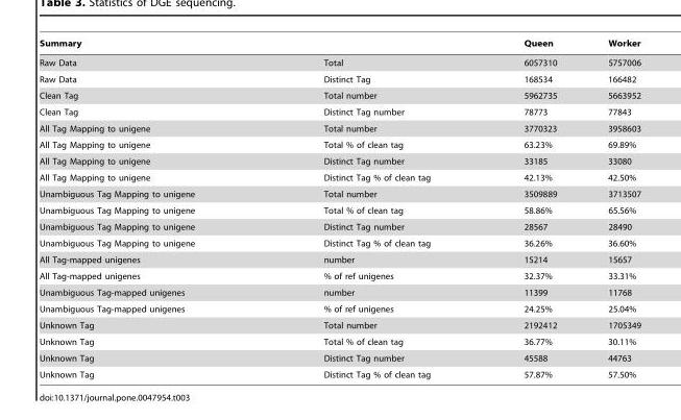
<table><thead><tr><td colspan="2">Summary</td><td rowspan="2">Queen 6057310</td><td rowspan="2">Worker 5757006</td></tr><tr><td>Raw Data</td><td>Total</td></tr></thead><tbody><tr><td>Raw Data</td><td>Distinct Tag</td><td>168534</td><td>166482</td></tr><tr><td>Clean Tag</td><td>Total number</td><td>5962735</td><td>5663952</td></tr><tr><td>Clean Tag</td><td>Distinct Tag number</td><td>78773</td><td>77843</td></tr><tr><td>All Tag Mapping to unigene</td><td>Total number</td><td>3770323</td><td>3958603</td></tr><tr><td>All Tag Mapping to unigene</td><td>Total % of clean tag</td><td>63.23%</td><td>69.89%</td></tr><tr><td>All Tag Mapping to unigene</td><td>Distinct Tag number</td><td>33185</td><td>33080</td></tr><tr><td>All Tag Mapping to unigene</td><td>Distinct Tag % of clean tag</td><td>42.13%</td><td>42.50%</td></tr><tr><td>Unambiguous Tag Mapping to unigene</td><td>Total number</td><td>3509889</td><td>3713507</td></tr><tr><td>Unambiguous Tag Mapping to unigene</td><td>Total % of clean tag</td><td>58.86%</td><td>65.56%</td></tr><tr><td>Unambiguous Tag Mapping to unigene</td><td>Distinct Tag number</td><td>28567</td><td>28490</td></tr><tr><td>Unambiguous Tag Mapping to unigene</td><td>Distinct Tag % of clean tag</td><td>36.26%</td><td>36.60%</td></tr><tr><td>All Tag-mapped unigenes</td><td>number</td><td>15214</td><td>15657</td></tr><tr><td>All Tag-mapped unigenes</td><td>% of ref unigenes</td><td>32.37%</td><td>33.31%</td></tr><tr><td>Unambiguous Tag-mapped unigenes</td><td>number</td><td>11399</td><td>11768</td></tr><tr><td>Unambiguous Tag-mapped unigenes</td><td>% of ref unigenes</td><td>24.25%</td><td>25.04%</td></tr><tr><td>Unknown Tag</td><td>Total number</td><td>2192412</td><td>1705349</td></tr><tr><td>Unknown Tag</td><td>Total % of clean tag</td><td>36.77%</td><td>30.11%</td></tr><tr><td>Unknown Tag</td><td>Distinct Tag number</td><td>45588</td><td>44763</td></tr><tr><td>Unknown Tag</td><td>Distinct Tag % of clean tag</td><td>57.87%</td><td>57.50%</td></tr></tbody></table>